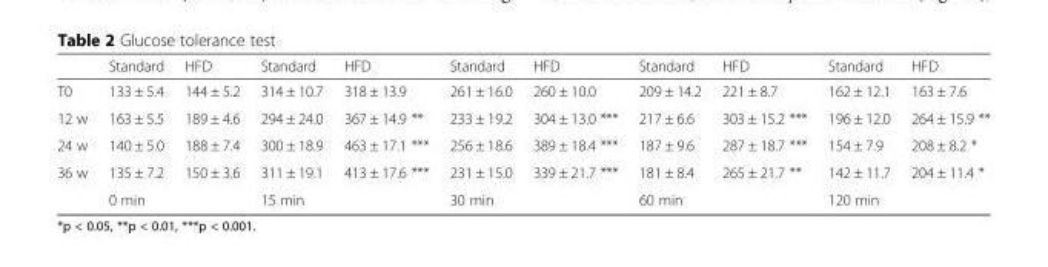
<table><thead><tr><td></td><td>Standard</td><td>HFD</td><td>Standard</td><td>HFD</td><td>Standard</td><td>HFD</td><td>Standard</td><td>HFD</td><td>Standard</td><td>HFD</td></tr></thead><tbody><tr><td>T0</td><td>133 ± 5.4</td><td>144 ± 5.2</td><td>314 ± 10.7</td><td>318 ± 13.9</td><td>261 ± 16.0</td><td>260 ± 10.0</td><td>209 ± 14.2</td><td>221 ± 8.7</td><td>162 ± 12.1</td><td>163 ± 7.6</td></tr><tr><td>12 w</td><td>163 ± 5.5</td><td>189 ± 4.6</td><td>294 ± 24.0</td><td>367 ± 14.9 **</td><td>233 ± 19.2</td><td>304 ± 13.0 ***</td><td>217 ± 6.6</td><td>303 ± 15.2 ***</td><td>196 ± 12.0</td><td>264 ± 15.9 **</td></tr><tr><td>24 w</td><td>140 ± 5.0</td><td>188 ± 7.4</td><td>300 ± 18.9</td><td>463 ± 17.1 ***</td><td>256 ± 18.6</td><td>389 ± 18.4 ***</td><td>187 ± 9.6</td><td>287 ± 18.7 ***</td><td>154 ± 7.9</td><td>208 ± 8.2 *</td></tr><tr><td rowspan="2">36 w</td><td>135 ± 7.2</td><td>150 ± 3.6</td><td>311 ± 19.1</td><td>413 ± 17.6 ***</td><td>231 ± 15.0</td><td>339 ± 21.7 ***</td><td>181 ± 8.4</td><td>265 ± 21.7 **</td><td>142 ± 11.7</td><td>204 ± 11.4 *</td></tr><tr><td colspan="2">0 min</td><td colspan="2">15 min</td><td colspan="2">30 min</td><td colspan="2">60 min</td><td colspan="2">120 min</td></tr></tbody></table>